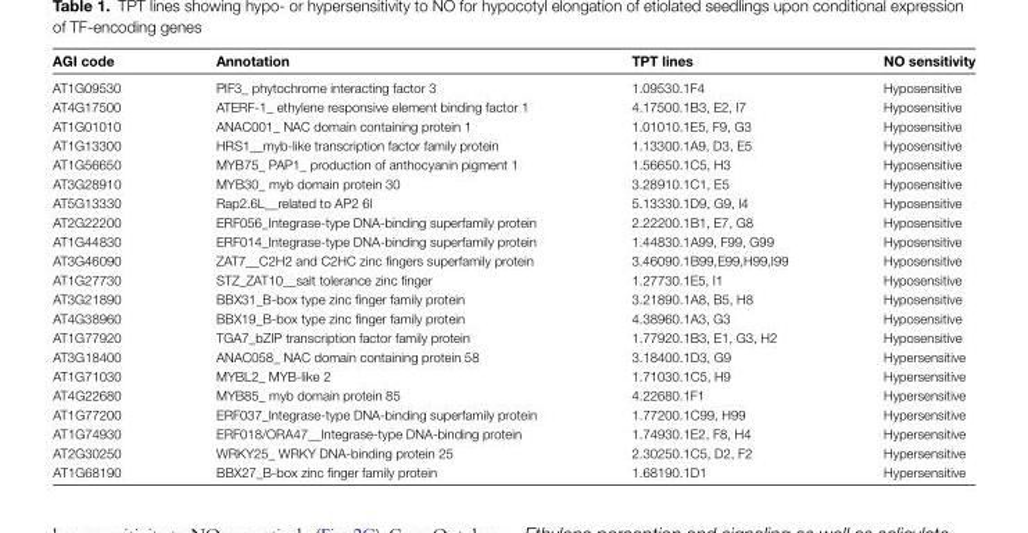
<table><thead><tr><td>AGI code</td><td>Annotation</td><td>TPT lines</td><td>NO sensitivity</td></tr></thead><tbody><tr><td>AT1G09530</td><td>PIF3_ phytochrome interacting factor 3</td><td>1.09530.1F4</td><td>Hyposensitive</td></tr><tr><td>AT4G17500</td><td>ATERF-1_ ethylene responsive element binding factor 1</td><td>4.17500.1B3, E2, I7</td><td>Hyposensitive</td></tr><tr><td>AT1G01010</td><td>ANAC001_ NAC domain containing protein 1</td><td>1.01010.1E5, F9, G3</td><td>Hyposensitive</td></tr><tr><td>AT1G13300</td><td>HRS1__myb-like transcription factor family protein</td><td>1.13300.1A9, D3, E5</td><td>Hyposensitive</td></tr><tr><td>AT1G56650</td><td>MYB75_ PAP1_ production of anthocyanin pigment 1</td><td>1.56650.1C5, H3</td><td>Hyposensitive</td></tr><tr><td>AT3G28910</td><td>MYB30_ myb domain protein 30</td><td>3.28910.1C1, E5</td><td>Hyposensitive</td></tr><tr><td>AT5G13330</td><td>Rap2.6L__related to AP2 6l</td><td>5.13330.1D9, G9, I4</td><td>Hyposensitive</td></tr><tr><td>AT2G22200</td><td>ERF056_Integrase-type DNA-binding superfamily protein</td><td>2.22200.1B1, E7, G8</td><td>Hyposensitive</td></tr><tr><td>AT1G44830</td><td>ERF014_Integrase-type DNA-binding superfamily protein</td><td>1.44830.1A99, F99, G99</td><td>Hyposensitive</td></tr><tr><td>AT3G46090</td><td>ZAT7__C2H2 and C2HC zinc fingers superfamily protein</td><td>3.46090.1B99,E99,H99,I99</td><td>Hyposensitive</td></tr><tr><td>AT1G27730</td><td>STZ_ZAT10__salt tolerance zinc finger</td><td>1.27730.1E5, I1</td><td>Hyposensitive</td></tr><tr><td>AT3G21890</td><td>BBX31_B-box type zinc finger family protein</td><td>3.21890.1A8, B5, H8</td><td>Hyposensitive</td></tr><tr><td>AT4G38960</td><td>BBX19_B-box type zinc finger family protein</td><td>4.38960.1A3, G3</td><td>Hyposensitive</td></tr><tr><td>AT1G77920</td><td>TGA7_bZIP transcription factor family protein</td><td>1.77920.1B3, E1, G3, H2</td><td>Hyposensitive</td></tr><tr><td>AT3G18400</td><td>ANAC058_ NAC domain containing protein 58</td><td>3.18400.1D3, G9</td><td>Hypersensitive</td></tr><tr><td>AT1G71030</td><td>MYBL2_ MYB-like 2</td><td>1.71030.1C5, H9</td><td>Hypersensitive</td></tr><tr><td>AT4G22680</td><td>MYB85_ myb domain protein 85</td><td>4.22680.1F1</td><td>Hypersensitive</td></tr><tr><td>AT1G77200</td><td>ERF037_Integrase-type DNA-binding superfamily protein</td><td>1.77200.1C99, H99</td><td>Hypersensitive</td></tr><tr><td>AT1G74930</td><td>ERF018/ORA47__Integrase-type DNA-binding protein</td><td>1.74930.1E2, F8, H4</td><td>Hypersensitive</td></tr><tr><td>AT2G30250</td><td>WRKY25_ WRKY DNA-binding protein 25</td><td>2.30250.1C5, D2, F2</td><td>Hypersensitive</td></tr><tr><td>AT1G68190</td><td>BBX27_B-box zinc finger family protein</td><td>1.68190.1D1</td><td>Hypersensitive</td></tr></tbody></table>